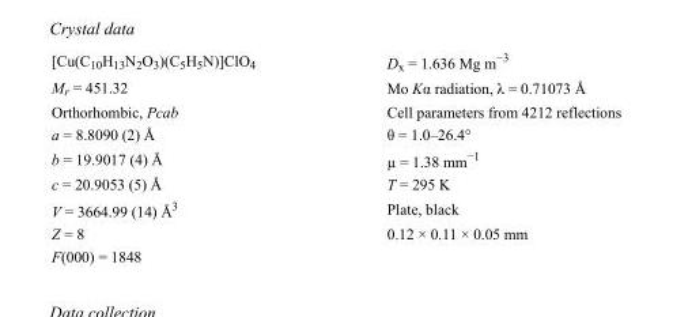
<table><tbody><tr><td>[Cu(C<sub>10</sub>H<sub>13</sub>N<sub>2</sub>O<sub>3</sub>)(C<sub>5</sub>H<sub>5</sub>N)]ClO<sub>4</sub></td><td>D<sub>x</sub> = 1.636 Mg m<sup>−3</sup></td></tr><tr><td>M<sub>r</sub> = 451.32</td><td>Mo Kα radiation, λ = 0.71073 Å</td></tr><tr><td>Orthorhombic, Pcab</td><td>Cell parameters from 4212 reflections</td></tr><tr><td>a = 8.8090 (2) Å</td><td>θ = 1.0–26.4°</td></tr><tr><td>b = 19.9017 (4) Å</td><td>µ = 1.38 mm<sup>−1</sup></td></tr><tr><td>c = 20.9053 (5) Å</td><td>T = 295 K</td></tr><tr><td>V = 3664.99 (14) Å<sup>3</sup></td><td>Plate, black</td></tr><tr><td>Z = 8</td><td>0.12 × 0.11 × 0.05 mm</td></tr><tr><td>F(000) = 1848</td><td></td></tr></tbody></table>